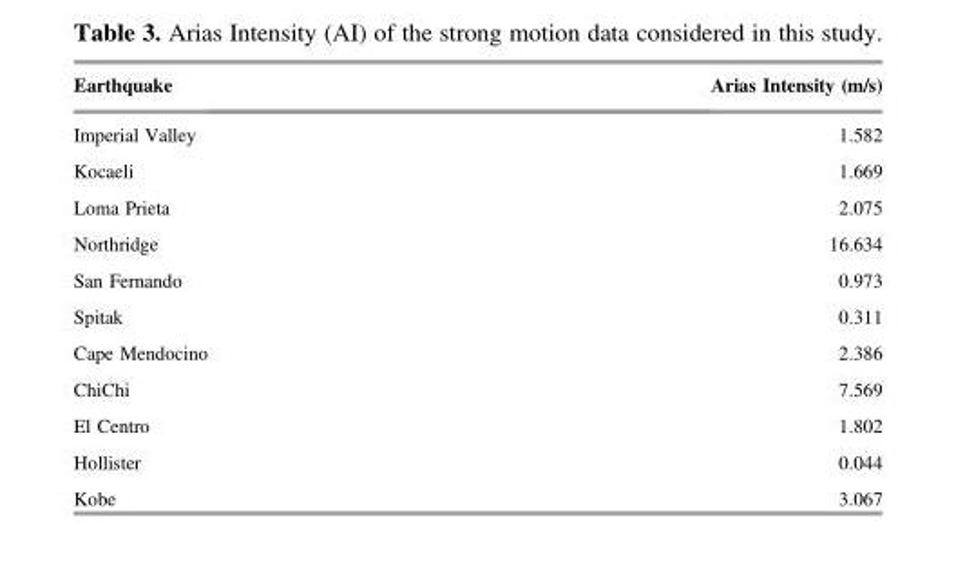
<table><thead><tr><td>Earthquake</td><td>Arias Intensity (m/s)</td></tr></thead><tbody><tr><td>Imperial Valley</td><td>1.582</td></tr><tr><td>Kocaeli</td><td>1.669</td></tr><tr><td>Loma Prieta</td><td>2.075</td></tr><tr><td>Northridge</td><td>16.634</td></tr><tr><td>San Fernando</td><td>0.973</td></tr><tr><td>Spitak</td><td>0.311</td></tr><tr><td>Cape Mendocino</td><td>2.386</td></tr><tr><td>ChiChi</td><td>7.569</td></tr><tr><td>El Centro</td><td>1.802</td></tr><tr><td>Hollister</td><td>0.044</td></tr><tr><td>Kobe</td><td>3.067</td></tr></tbody></table>